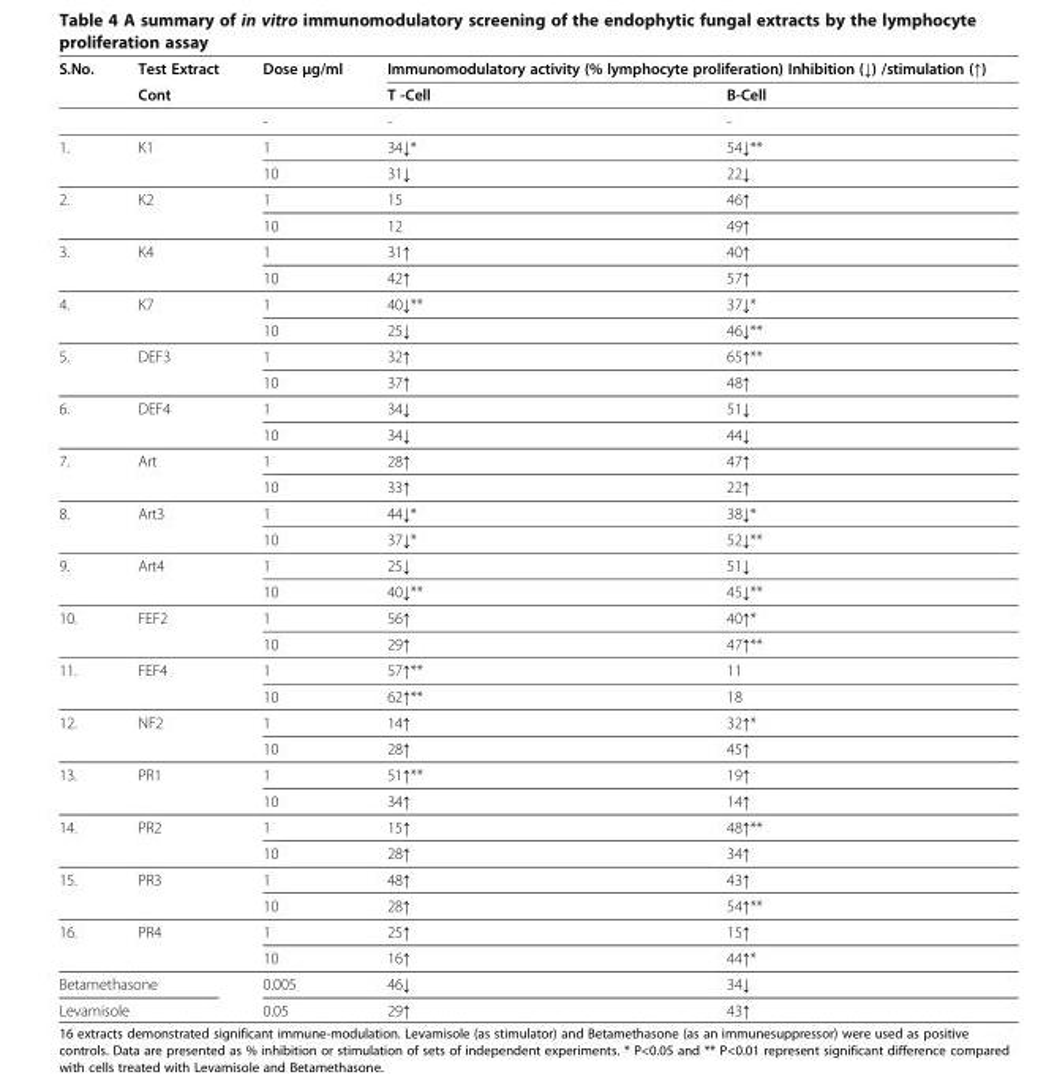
<table><thead><tr><td rowspan="3">S.No.</td><td rowspan="3">Test Extract Cont</td><td rowspan="3">Dose μg/ml -</td><td colspan="2">Immunomodulatory activity (% lymphocyte proliferation) Inhibition (↓) /stimulation (↑)</td></tr><tr><td rowspan="2">T -Cell -</td><td rowspan="2">B-Cell -</td></tr><tr></tr></thead><tbody><tr><td rowspan="2">1.</td><td>K1</td><td>1</td><td>34↓*</td><td>54↓**</td></tr><tr><td></td><td>10</td><td>31↓</td><td>22↓</td></tr><tr><td rowspan="2">2.</td><td>K2</td><td>1</td><td>15</td><td>46↑</td></tr><tr><td></td><td>10</td><td>12</td><td>49↑</td></tr><tr><td rowspan="2">3.</td><td>K4</td><td>1</td><td>31↑</td><td>40↑</td></tr><tr><td></td><td>10</td><td>42↑</td><td>57↑</td></tr><tr><td rowspan="2">4.</td><td>K7</td><td>1</td><td>40↓**</td><td>37↓*</td></tr><tr><td></td><td>10</td><td>25↓</td><td>46↓**</td></tr><tr><td rowspan="2">5.</td><td>DEF3</td><td>1</td><td>32↑</td><td>65↑**</td></tr><tr><td></td><td>10</td><td>37↑</td><td>48↑</td></tr><tr><td rowspan="2">6.</td><td>DEF4</td><td>1</td><td>34↓</td><td>51↓</td></tr><tr><td></td><td>10</td><td>34↓</td><td>44↓</td></tr><tr><td rowspan="2">7.</td><td>Art</td><td>1</td><td>28↑</td><td>47↑</td></tr><tr><td></td><td>10</td><td>33↑</td><td>22↑</td></tr><tr><td rowspan="2">8.</td><td>Art3</td><td>1</td><td>44↓*</td><td>38↓*</td></tr><tr><td></td><td>10</td><td>37↓*</td><td>52↓**</td></tr><tr><td rowspan="2">9.</td><td>Art4</td><td>1</td><td>25↓</td><td>51↓</td></tr><tr><td></td><td>10</td><td>40↓**</td><td>45↓**</td></tr><tr><td rowspan="2">10.</td><td>FEF2</td><td>1</td><td>56↑</td><td>40↑*</td></tr><tr><td></td><td>10</td><td>29↑</td><td>47↑**</td></tr><tr><td rowspan="2">11.</td><td>FEF4</td><td>1</td><td>57↑**</td><td>11</td></tr><tr><td></td><td>10</td><td>62↑**</td><td>18</td></tr><tr><td rowspan="2">12.</td><td>NF2</td><td>1</td><td>14↑</td><td>32↑*</td></tr><tr><td></td><td>10</td><td>28↑</td><td>45↑</td></tr><tr><td rowspan="2">13.</td><td>PR1</td><td>1</td><td>51↑**</td><td>19↑</td></tr><tr><td></td><td>10</td><td>34↑</td><td>14↑</td></tr><tr><td rowspan="2">14.</td><td>PR2</td><td>1</td><td>15↑</td><td>48↑**</td></tr><tr><td></td><td>10</td><td>28↑</td><td>34↑</td></tr><tr><td rowspan="2">15.</td><td>PR3</td><td>1</td><td>48↑</td><td>43↑</td></tr><tr><td></td><td>10</td><td>28↑</td><td>54↑**</td></tr><tr><td rowspan="2">16.</td><td>PR4</td><td>1</td><td>25↑</td><td>15↑</td></tr><tr><td></td><td>10</td><td>16↑</td><td>44↑*</td></tr><tr><td colspan="2">Betamethasone</td><td>0.005</td><td>46↓</td><td>34↓</td></tr><tr><td colspan="2">Levamisole</td><td>0.05</td><td>29↑</td><td>43↑</td></tr></tbody></table>